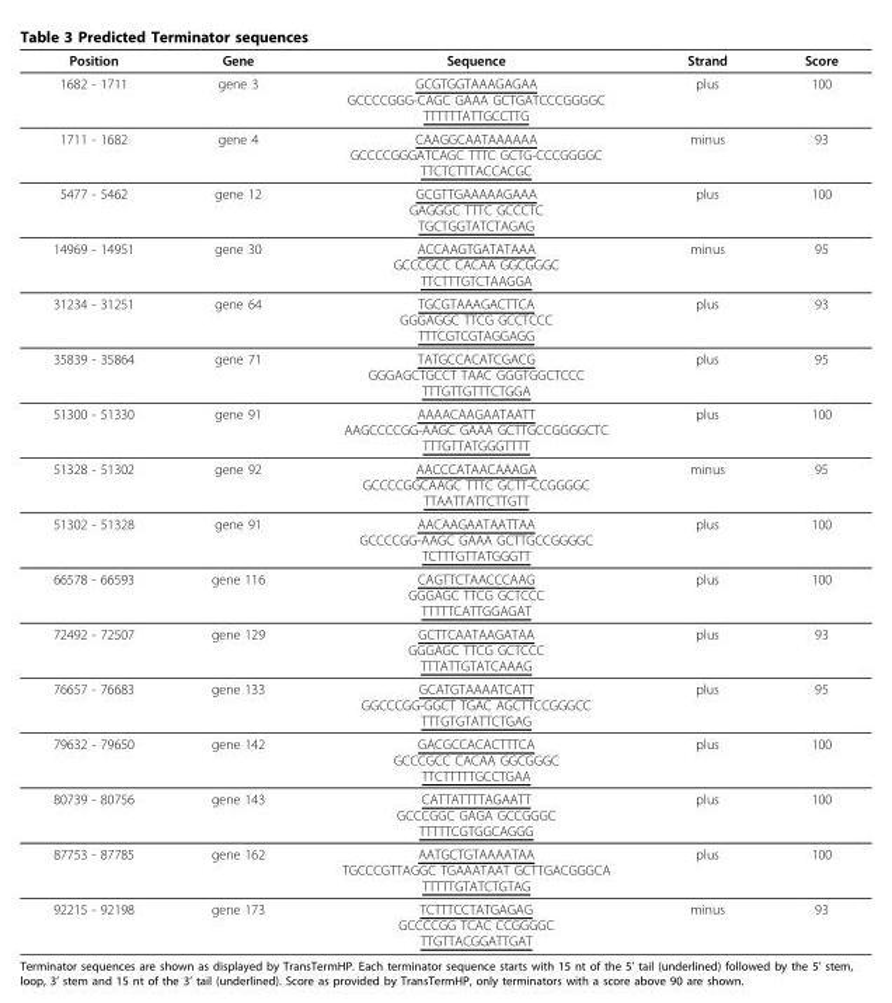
<table><thead><tr><td>Position</td><td>Gene</td><td>Sequence</td><td>Strand</td><td>Score</td></tr></thead><tbody><tr><td>1682 - 1711</td><td>gene 3</td><td>GCGTGGTAAAGAGAA GCCCCGGG-CAGC GAAA GCTGATCCCGGGGC TTTTTTATTGCCTTG</td><td>plus</td><td>100</td></tr><tr><td>1711 - 1682</td><td>gene 4</td><td>CAAGGCAATAAAAAA GCCCCGGGATCAGC TTTC GCTG-CCCGGGGC TTCTCTTTACCACGC</td><td>minus</td><td>93</td></tr><tr><td>5477 - 5462</td><td>gene 12</td><td>GCGTTGAAAAAGAAA GAGGGC TTTC GCCCTC TGCTGGTATCTAGAG</td><td>plus</td><td>100</td></tr><tr><td>14969 - 14951</td><td>gene 30</td><td>ACCAAGTGATATAAA GCCCGCC CACAA GGCGGGC TTCTTTGTCTAAGGA</td><td>minus</td><td>95</td></tr><tr><td>31234 - 31251</td><td>gene 64</td><td>TGCGTAAAGACTTCA GGGAGGC TTCG GCCTCCC TTTCGTCGTAGGAGG</td><td>plus</td><td>93</td></tr><tr><td>35839 - 35864</td><td>gene 71</td><td>TATGCCACATCGACG GGGAGCTGCCT TAAC GGGTGGCTCCC TTTGTTGTTTCTGGA</td><td>plus</td><td>95</td></tr><tr><td>51300 - 51330</td><td>gene 91</td><td>AAAACAAGAATAATT AAGCCCCGG-AAGC GAAA GCTTGCCGGGGCTC TTTGTTATGGGTTTT</td><td>plus</td><td>100</td></tr><tr><td>51328 - 51302</td><td>gene 92</td><td>AACCCATAACAAAGA GCCCCGGCAAGC TTTC GCTT-CCGGGGC TTAATTATTCTTGTT</td><td>minus</td><td>95</td></tr><tr><td>51302 - 51328</td><td>gene 91</td><td>AACAAGAATAATTAA GCCCCGG-AAGC GAAA GCTTGCCGGGGC TCTTTGTTATGGGTT</td><td>plus</td><td>100</td></tr><tr><td>66578 - 66593</td><td>gene 116</td><td>CAGTTCTAACCCAAG GGGAGC TTCG GCTCCC TTTTTCATTGGAGAT</td><td>plus</td><td>100</td></tr><tr><td>72492 - 72507</td><td>gene 129</td><td>GCTTCAATAAGATAA GGGAGC TTCG GCTCCC TTTATTGTATCAAAG</td><td>plus</td><td>93</td></tr><tr><td>76657 - 76683</td><td>gene 133</td><td>GCATGTAAAATCATT GGCCCGG-GGCT TGAC AGCTTCCGGGCC TTTGTGTATTCTGAG</td><td>plus</td><td>95</td></tr><tr><td>79632 - 79650</td><td>gene 142</td><td>GACGCCACACTTTCA GCCCGCC CACAA GGCGGGC TTCTTTTTGCCTGAA</td><td>plus</td><td>100</td></tr><tr><td>80739 - 80756</td><td>gene 143</td><td>CATTATTTTAGAATT GCCCGGC GAGA GCCGGGC TTTTTCGTGGCAGGG</td><td>plus</td><td>100</td></tr><tr><td>87753 - 87785</td><td>gene 162</td><td>AATGCTGTAAAATAA TGCCCGTTAGGC TGAAATAAT GCTTGACGGGCA TTTTTGTATCTGTAG</td><td>plus</td><td>100</td></tr><tr><td>92215 - 92198</td><td>gene 173</td><td>TCTTTCCTATGAGAG GCCCCGG TCAC CCGGGGC TTGTTACGGATTGAT</td><td>minus</td><td>93</td></tr></tbody></table>